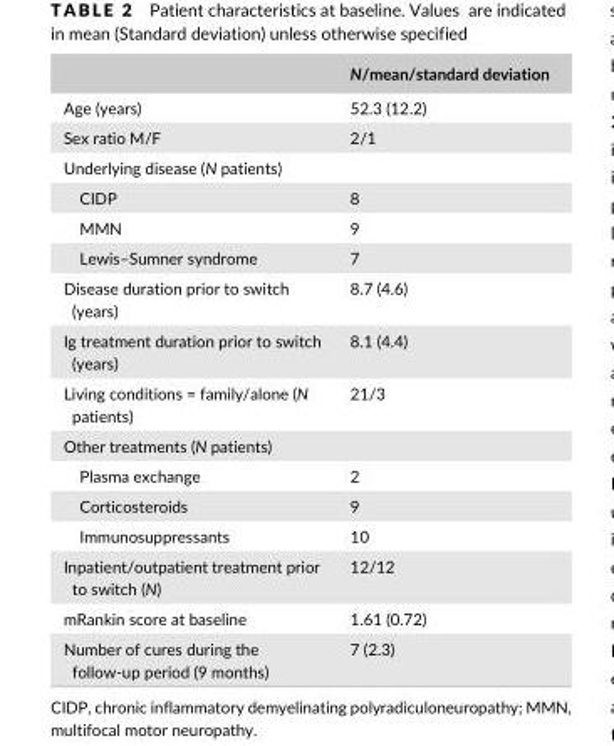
<table><thead><tr><td></td><td>N/mean/standard deviation</td></tr></thead><tbody><tr><td>Age (years)</td><td>52.3 (12.2)</td></tr><tr><td>Sex ratio M/F</td><td>2/1</td></tr><tr><td colspan="2">Underlying disease (N patients)</td></tr><tr><td>CIDP</td><td>8</td></tr><tr><td>MMN</td><td>9</td></tr><tr><td>Lewis–Sumner syndrome</td><td>7</td></tr><tr><td>Disease duration prior to switch (years)</td><td>8.7 (4.6)</td></tr><tr><td>Ig treatment duration prior to switch (years)</td><td>8.1 (4.4)</td></tr><tr><td>Living conditions = family/alone (N patients)</td><td>21/3</td></tr><tr><td colspan="2">Other treatments (N patients)</td></tr><tr><td>Plasma exchange</td><td>2</td></tr><tr><td>Corticosteroids</td><td>9</td></tr><tr><td>Immunosuppressants</td><td>10</td></tr><tr><td>Inpatient/outpatient treatment prior to switch (N)</td><td>12/12</td></tr><tr><td>mRankin score at baseline</td><td>1.61 (0.72)</td></tr><tr><td>Number of cures during the follow- up period (9 months)</td><td>7 (2.3)</td></tr></tbody></table>